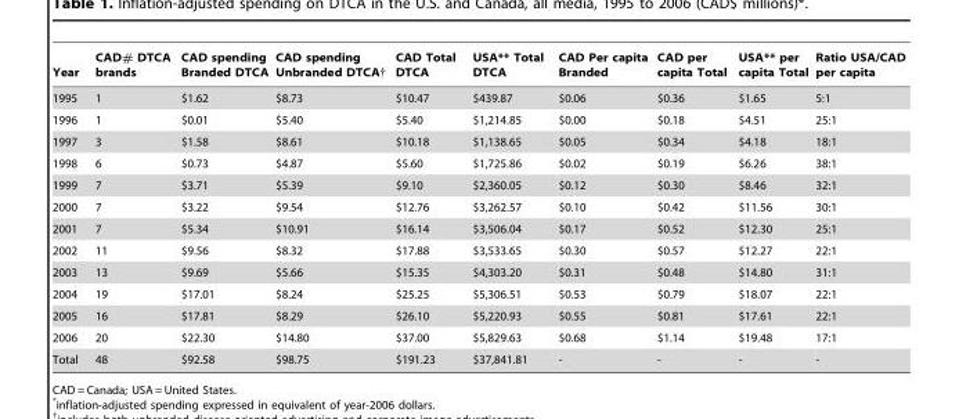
<table><thead><tr><td>Year</td><td>CAD# DTCA brands</td><td>CAD spending Branded DTCA</td><td>CAD spending Unbranded DTCA†</td><td>CAD Total DTCA</td><td>USA** Total DTCA</td><td>CAD Per capita Branded</td><td>CAD per capita Total</td><td>USA** per capita Total</td><td>Ratio USA/CAD per capita</td></tr></thead><tbody><tr><td>1995</td><td>1</td><td>$1.62</td><td>$8.73</td><td>$10.47</td><td>$439.87</td><td>$0.06</td><td>$0.36</td><td>$1.65</td><td>5:1</td></tr><tr><td>1996</td><td>1</td><td>$0.01</td><td>$5.40</td><td>$5.40</td><td>$1,214.85</td><td>$0.00</td><td>$0.18</td><td>$4.51</td><td>25:1</td></tr><tr><td>1997</td><td>3</td><td>$1.58</td><td>$8.61</td><td>$10.18</td><td>$1,138.65</td><td>$0.05</td><td>$0.34</td><td>$4.18</td><td>18:1</td></tr><tr><td>1998</td><td>6</td><td>$0.73</td><td>$4.87</td><td>$5.60</td><td>$1,725.86</td><td>$0.02</td><td>$0.19</td><td>$6.26</td><td>38:1</td></tr><tr><td>1999</td><td>7</td><td>$3.71</td><td>$5.39</td><td>$9.10</td><td>$2,360.05</td><td>$0.12</td><td>$0.30</td><td>$8.46</td><td>32:1</td></tr><tr><td>2000</td><td>7</td><td>$3.22</td><td>$9.54</td><td>$12.76</td><td>$3,262.57</td><td>$0.10</td><td>$0.42</td><td>$11.56</td><td>30:1</td></tr><tr><td>2001</td><td>7</td><td>$5.34</td><td>$10.91</td><td>$16.14</td><td>$3,506.04</td><td>$0.17</td><td>$0.52</td><td>$12.30</td><td>25:1</td></tr><tr><td>2002</td><td>11</td><td>$9.56</td><td>$8.32</td><td>$17.88</td><td>$3,533.65</td><td>$0.30</td><td>$0.57</td><td>$12.27</td><td>22:1</td></tr><tr><td>2003</td><td>13</td><td>$9.69</td><td>$5.66</td><td>$15.35</td><td>$4,303.20</td><td>$0.31</td><td>$0.48</td><td>$14.80</td><td>31:1</td></tr><tr><td>2004</td><td>19</td><td>$17.01</td><td>$8.24</td><td>$25.25</td><td>$5,306.51</td><td>$0.53</td><td>$0.79</td><td>$18.07</td><td>22:1</td></tr><tr><td>2005</td><td>16</td><td>$17.81</td><td>$8.29</td><td>$26.10</td><td>$5,220.93</td><td>$0.55</td><td>$0.81</td><td>$17.61</td><td>22:1</td></tr><tr><td>2006</td><td>20</td><td>$22.30</td><td>$14.80</td><td>$37.00</td><td>$5,829.63</td><td>$0.68</td><td>$1.14</td><td>$19.48</td><td>17:1</td></tr><tr><td>Total</td><td>48</td><td>$92.58</td><td>$98.75</td><td>$191.23</td><td>$37,841.81</td><td>-</td><td>-</td><td>-</td><td>-</td></tr></tbody></table>